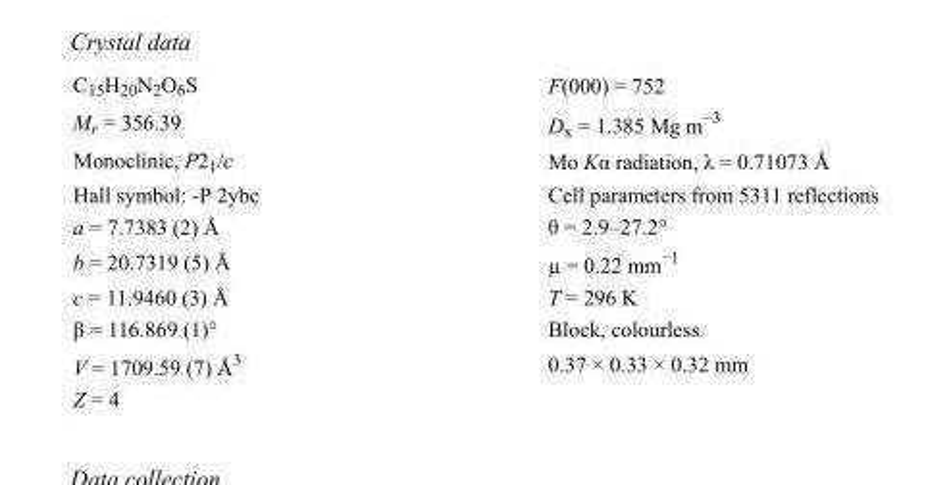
<table><tbody><tr><td>C<sub>15</sub>H<sub>20</sub>N<sub>2</sub>O<sub>6</sub>S</td><td>F(000) = 752</td></tr><tr><td>M<sub>r</sub> = 356.39</td><td>D<sub>x</sub> = 1.385 Mg m<sup>−3</sup></td></tr><tr><td>Monoclinic, P2<sub>1</sub>/c</td><td>Mo Kα radiation, λ = 0.71073 Å</td></tr><tr><td>Hall symbol: -P 2ybc</td><td>Cell parameters from 5311 reflections</td></tr><tr><td>a = 7.7383 (2) Å</td><td>θ = 2.9–27.2°</td></tr><tr><td>b = 20.7319 (5) Å</td><td>µ = 0.22 mm<sup>−1</sup></td></tr><tr><td>c = 11.9460 (3) Å</td><td>T = 296 K</td></tr><tr><td>β = 116.869 (1)°</td><td>Block, colourless</td></tr><tr><td>V = 1709.59 (7) Å<sup>3</sup></td><td>0.37 × 0.33 × 0.32 mm</td></tr><tr><td>Z = 4</td><td></td></tr></tbody></table>